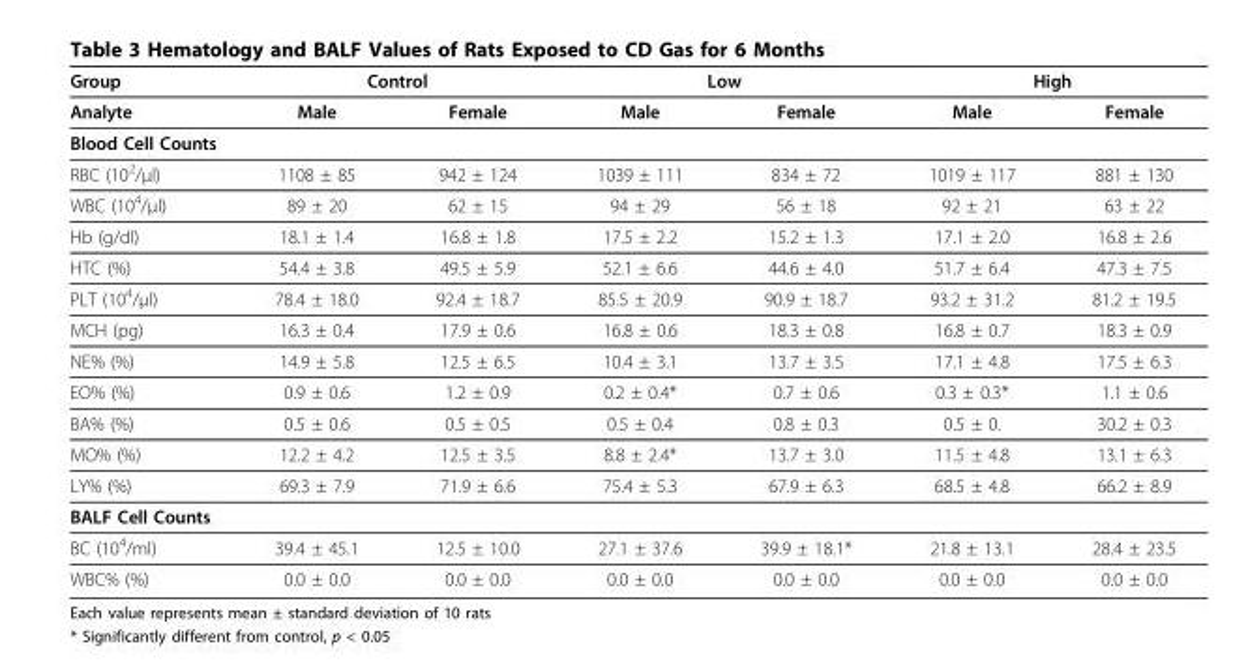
<table><thead><tr><td rowspan="2">Group Analyte</td><td colspan="2">Control</td><td colspan="2">Low</td><td colspan="2">High</td></tr><tr><td>Male</td><td>Female</td><td>Male</td><td>Female</td><td>Male</td><td>Female</td></tr></thead><tbody><tr><td colspan="7">Blood Cell Counts</td></tr><tr><td>RBC (102/μl)</td><td>1108 ± 85</td><td>942 ± 124</td><td>1039 ± 111</td><td>834 ± 72</td><td>1019 ± 117</td><td>881 ± 130</td></tr><tr><td>WBC (104/μl)</td><td>89 ± 20</td><td>62 ± 15</td><td>94 ± 29</td><td>56 ± 18</td><td>92 ± 21</td><td>63 ± 22</td></tr><tr><td>Hb (g/dl)</td><td>18.1 ± 1.4</td><td>16.8 ± 1.8</td><td>17.5 ± 2.2</td><td>15.2 ± 1.3</td><td>17.1 ± 2.0</td><td>16.8 ± 2.6</td></tr><tr><td>HTC (%)</td><td>54.4 ± 3.8</td><td>49.5 ± 5.9</td><td>52.1 ± 6.6</td><td>44.6 ± 4.0</td><td>51.7 ± 6.4</td><td>47.3 ± 7.5</td></tr><tr><td>PLT (104/μl)</td><td>78.4 ± 18.0</td><td>92.4 ± 18.7</td><td>85.5 ± 20.9</td><td>90.9 ± 18.7</td><td>93.2 ± 31.2</td><td>81.2 ± 19.5</td></tr><tr><td>MCH (pg)</td><td>16.3 ± 0.4</td><td>17.9 ± 0.6</td><td>16.8 ± 0.6</td><td>18.3 ± 0.8</td><td>16.8 ± 0.7</td><td>18.3 ± 0.9</td></tr><tr><td>NE% (%)</td><td>14.9 ± 5.8</td><td>12.5 ± 6.5</td><td>10.4 ± 3.1</td><td>13.7 ± 3.5</td><td>17.1 ± 4.8</td><td>17.5 ± 6.3</td></tr><tr><td>EO% (%)</td><td>0.9 ± 0.6</td><td>1.2 ± 0.9</td><td>0.2 ± 0.4*</td><td>0.7 ± 0.6</td><td>0.3 ± 0.3*</td><td>1.1 ± 0.6</td></tr><tr><td>BA% (%)</td><td>0.5 ± 0.6</td><td>0.5 ± 0.5</td><td>0.5 ± 0.4</td><td>0.8 ± 0.3</td><td>0.5 ± 0.</td><td>30.2 ± 0.3</td></tr><tr><td>MO% (%)</td><td>12.2 ± 4.2</td><td>12.5 ± 3.5</td><td>8.8 ± 2.4*</td><td>13.7 ± 3.0</td><td>11.5 ± 4.8</td><td>13.1 ± 6.3</td></tr><tr><td>LY% (%)</td><td>69.3 ± 7.9</td><td>71.9 ± 6.6</td><td>75.4 ± 5.3</td><td>67.9 ± 6.3</td><td>68.5 ± 4.8</td><td>66.2 ± 8.9</td></tr><tr><td colspan="7">BALF Cell Counts</td></tr><tr><td>BC (104/ml)</td><td>39.4 ± 45.1</td><td>12.5 ± 10.0</td><td>27.1 ± 37.6</td><td>39.9 ± 18.1*</td><td>21.8 ± 13.1</td><td>28.4 ± 23.5</td></tr><tr><td>WBC% (%)</td><td>0.0 ± 0.0</td><td>0.0 ± 0.0</td><td>0.0 ± 0.0</td><td>0.0 ± 0.0</td><td>0.0 ± 0.0</td><td>0.0 ± 0.0</td></tr></tbody></table>